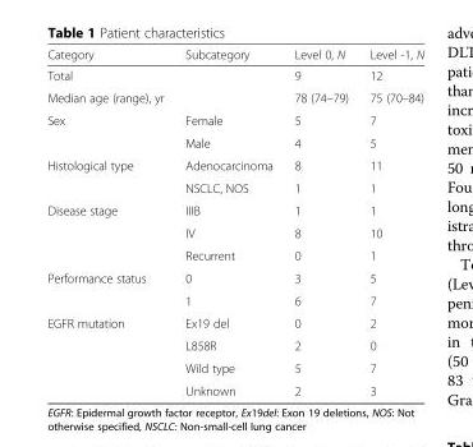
<table><thead><tr><td>Category</td><td>Subcategory</td><td>Level 0, N</td><td>Level -1, N</td></tr></thead><tbody><tr><td>Total</td><td></td><td>9</td><td>12</td></tr><tr><td>Median age (range), yr</td><td></td><td>78 (74–79)</td><td>75 (70–84)</td></tr><tr><td rowspan="2">Sex</td><td>Female</td><td>5</td><td>7</td></tr><tr><td>Male</td><td>4</td><td>5</td></tr><tr><td rowspan="2">Histological type</td><td>Adenocarcinoma</td><td>8</td><td>11</td></tr><tr><td>NSCLC, NOS</td><td>1</td><td>1</td></tr><tr><td rowspan="3">Disease stage</td><td>IIIB</td><td>1</td><td>1</td></tr><tr><td>IV</td><td>8</td><td>10</td></tr><tr><td>Recurrent</td><td>0</td><td>1</td></tr><tr><td rowspan="2">Performance status</td><td>0</td><td>3</td><td>5</td></tr><tr><td>1</td><td>6</td><td>7</td></tr><tr><td rowspan="4">EGFR mutation</td><td>Ex19 del</td><td>0</td><td>2</td></tr><tr><td>L858R</td><td>2</td><td>0</td></tr><tr><td>Wild type</td><td>5</td><td>7</td></tr><tr><td>Unknown</td><td>2</td><td>3</td></tr></tbody></table>